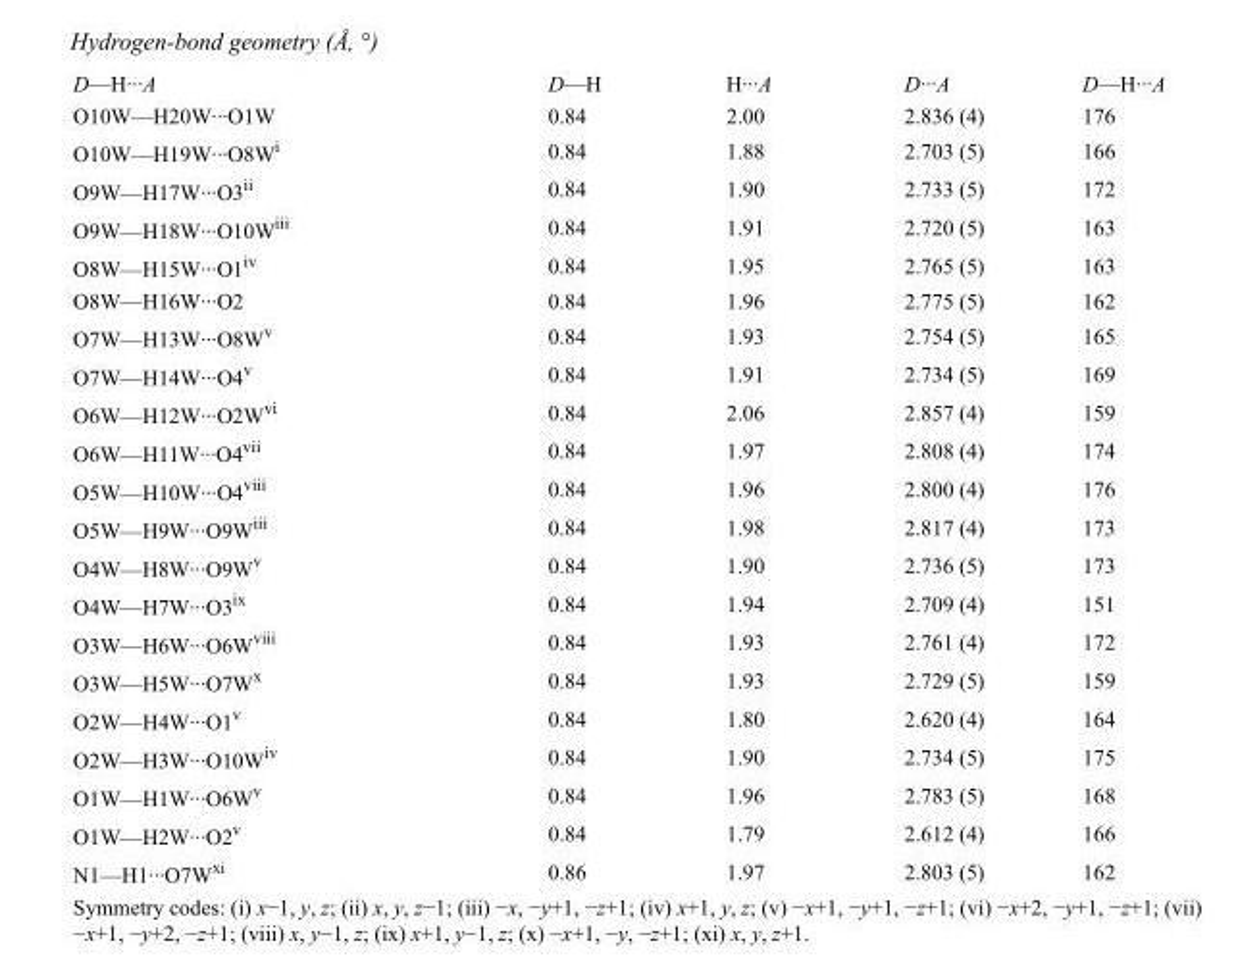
<table><tbody><tr><td>D—H···A</td><td>D—H</td><td>H···A</td><td>D···A</td><td>D—H···A</td></tr><tr><td>O10W—H20W···O1W</td><td>0.84</td><td>2.00</td><td>2.836 (4)</td><td>176</td></tr><tr><td>O10W—H19W···O8W<sup>i</sup></td><td>0.84</td><td>1.88</td><td>2.703 (5)</td><td>166</td></tr><tr><td>O9W—H17W···O3<sup>ii</sup></td><td>0.84</td><td>1.90</td><td>2.733 (5)</td><td>172</td></tr><tr><td>O9W—H18W···O10W<sup>iii</sup></td><td>0.84</td><td>1.91</td><td>2.720 (5)</td><td>163</td></tr><tr><td>O8W—H15W···O1<sup>iv</sup></td><td>0.84</td><td>1.95</td><td>2.765 (5)</td><td>163</td></tr><tr><td>O8W—H16W···O2</td><td>0.84</td><td>1.96</td><td>2.775 (5)</td><td>162</td></tr><tr><td>O7W—H13W···O8W<sup>v</sup></td><td>0.84</td><td>1.93</td><td>2.754 (5)</td><td>165</td></tr><tr><td>O7W—H14W···O4<sup>v</sup></td><td>0.84</td><td>1.91</td><td>2.734 (5)</td><td>169</td></tr><tr><td>O6W—H12W···O2W<sup>vi</sup></td><td>0.84</td><td>2.06</td><td>2.857 (4)</td><td>159</td></tr><tr><td>O6W—H11W···O4<sup>vii</sup></td><td>0.84</td><td>1.97</td><td>2.808 (4)</td><td>174</td></tr><tr><td>O5W—H10W···O4<sup>viii</sup></td><td>0.84</td><td>1.96</td><td>2.800 (4)</td><td>176</td></tr><tr><td>O5W—H9W···O9W<sup>iii</sup></td><td>0.84</td><td>1.98</td><td>2.817 (4)</td><td>173</td></tr><tr><td>O4W—H8W···O9W<sup>v</sup></td><td>0.84</td><td>1.90</td><td>2.736 (5)</td><td>173</td></tr><tr><td>O4W—H7W···O3<sup>ix</sup></td><td>0.84</td><td>1.94</td><td>2.709 (4)</td><td>151</td></tr><tr><td>O3W—H6W···O6W<sup>viii</sup></td><td>0.84</td><td>1.93</td><td>2.761 (4)</td><td>172</td></tr><tr><td>O3W—H5W···O7W<sup>x</sup></td><td>0.84</td><td>1.93</td><td>2.729 (5)</td><td>159</td></tr><tr><td>O2W—H4W···O1<sup>v</sup></td><td>0.84</td><td>1.80</td><td>2.620 (4)</td><td>164</td></tr><tr><td>O2W—H3W···O10W<sup>iv</sup></td><td>0.84</td><td>1.90</td><td>2.734 (5)</td><td>175</td></tr><tr><td>O1W—H1W···O6W<sup>v</sup></td><td>0.84</td><td>1.96</td><td>2.783 (5)</td><td>168</td></tr><tr><td>O1W—H2W···O2<sup>v</sup></td><td>0.84</td><td>1.79</td><td>2.612 (4)</td><td>166</td></tr><tr><td>N1—H1···O7W<sup>xi</sup></td><td>0.86</td><td>1.97</td><td>2.803 (5)</td><td>162</td></tr></tbody></table>